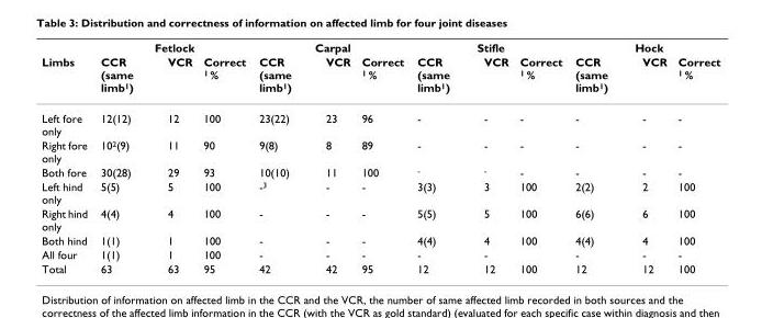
<table><thead><tr><td rowspan="2">Limbs</td><td colspan="3">Fetlock</td><td colspan="3">Carpal</td><td colspan="3">Stifle</td><td colspan="3">Hock</td></tr><tr><td>CCR (same limb<sup>1</sup>)</td><td>VCR</td><td>Correct <sup>1</sup> %</td><td>CCR (same limb<sup>1</sup>)</td><td>VCR</td><td>Correct <sup>1</sup> %</td><td>CCR (same limb<sup>1</sup>)</td><td>VCR</td><td>Correct <sup>1</sup> %</td><td>CCR (same limb<sup>1</sup>)</td><td>VCR</td><td>Correct <sup>1</sup> %</td></tr></thead><tbody><tr><td>Left fore only</td><td>12(12)</td><td>12</td><td>100</td><td>23(22)</td><td>23</td><td>96</td><td>-</td><td>-</td><td>-</td><td>-</td><td>-</td><td>-</td></tr><tr><td>Right fore only</td><td>10<sup>2</sup>(9)</td><td>11</td><td>90</td><td>9(8)</td><td>8</td><td>89</td><td>-</td><td>-</td><td>-</td><td>-</td><td>-</td><td>-</td></tr><tr><td>Both fore</td><td>30(28)</td><td>29</td><td>93</td><td>10(10)</td><td>11</td><td>100</td><td><sup>-</sup></td><td><sup>-</sup></td><td>-</td><td>-</td><td>-</td><td>-</td></tr><tr><td>Left hind only</td><td>5(5)</td><td>5</td><td>100</td><td>-<sup>3</sup></td><td>-</td><td>-</td><td>3(3)</td><td>3</td><td>100</td><td>2(2)</td><td>2</td><td>100</td></tr><tr><td>Right hind only</td><td>4(4)</td><td>4</td><td>100</td><td>-</td><td>-</td><td>-</td><td>5(5)</td><td>5</td><td>100</td><td>6(6)</td><td>6</td><td>100</td></tr><tr><td>Both hind</td><td>1(1)</td><td>1</td><td>100</td><td>-</td><td>-</td><td>-</td><td>4(4)</td><td>4</td><td>100</td><td>4(4)</td><td>4</td><td>100</td></tr><tr><td>All four</td><td>1(1)</td><td>1</td><td>100</td><td>-</td><td>-</td><td>-</td><td>-</td><td>-</td><td></td><td>-</td><td>-</td><td>-</td></tr><tr><td>Total</td><td>63</td><td>63</td><td>95</td><td>42</td><td>42</td><td>95</td><td>12</td><td>12</td><td>100</td><td>12</td><td>12</td><td>100</td></tr></tbody></table>